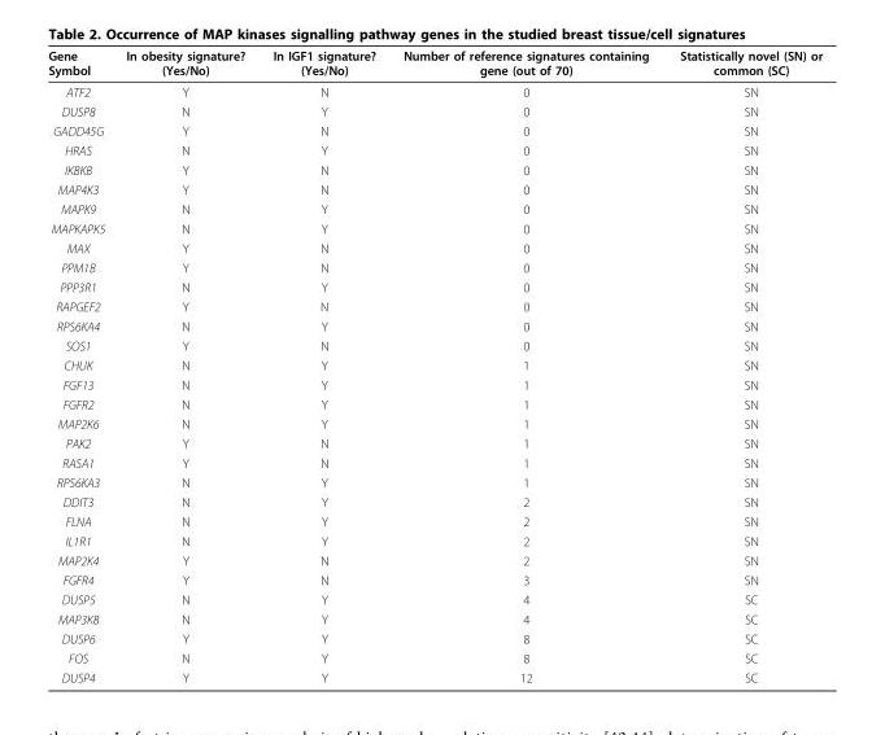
<table><thead><tr><td>Gene Symbol</td><td>In obesity signature? (Yes/No)</td><td>In IGF1 signature? (Yes/No)</td><td>Number of reference signatures containing gene (out of 70)</td><td>Statistically novel (SN) or common (SC)</td></tr></thead><tbody><tr><td>ATF2</td><td>Y</td><td>N</td><td>0</td><td>SN</td></tr><tr><td>DUSP8</td><td>N</td><td>Y</td><td>0</td><td>SN</td></tr><tr><td>GADD45G</td><td>Y</td><td>N</td><td>0</td><td>SN</td></tr><tr><td>HRAS</td><td>N</td><td>Y</td><td>0</td><td>SN</td></tr><tr><td>IKBKB</td><td>Y</td><td>N</td><td>0</td><td>SN</td></tr><tr><td>MAP4K3</td><td>Y</td><td>N</td><td>0</td><td>SN</td></tr><tr><td>MAPK9</td><td>N</td><td>Y</td><td>0</td><td>SN</td></tr><tr><td>MAPKAPK5</td><td>N</td><td>Y</td><td>0</td><td>SN</td></tr><tr><td>MAX</td><td>Y</td><td>N</td><td>0</td><td>SN</td></tr><tr><td>PPM1B</td><td>Y</td><td>N</td><td>0</td><td>SN</td></tr><tr><td>PPP3R1</td><td>N</td><td>Y</td><td>0</td><td>SN</td></tr><tr><td>RAPGEF2</td><td>Y</td><td>N</td><td>0</td><td>SN</td></tr><tr><td>RPS6KA4</td><td>N</td><td>Y</td><td>0</td><td>SN</td></tr><tr><td>SOS1</td><td>Y</td><td>N</td><td>0</td><td>SN</td></tr><tr><td>CHUK</td><td>N</td><td>Y</td><td>1</td><td>SN</td></tr><tr><td>FGF13</td><td>N</td><td>Y</td><td>1</td><td>SN</td></tr><tr><td>FGFR2</td><td>N</td><td>Y</td><td>1</td><td>SN</td></tr><tr><td>MAP2K6</td><td>N</td><td>Y</td><td>1</td><td>SN</td></tr><tr><td>PAK2</td><td>Y</td><td>N</td><td>1</td><td>SN</td></tr><tr><td>RASA1</td><td>Y</td><td>N</td><td>1</td><td>SN</td></tr><tr><td>RPS6KA3</td><td>N</td><td>Y</td><td>1</td><td>SN</td></tr><tr><td>DDIT3</td><td>N</td><td>Y</td><td>2</td><td>SN</td></tr><tr><td>FLNA</td><td>N</td><td>Y</td><td>2</td><td>SN</td></tr><tr><td>IL1R1</td><td>N</td><td>Y</td><td>2</td><td>SN</td></tr><tr><td>MAP2K4</td><td>Y</td><td>N</td><td>2</td><td>SN</td></tr><tr><td>FGFR4</td><td>Y</td><td>N</td><td>3</td><td>SN</td></tr><tr><td>DUSP5</td><td>N</td><td>Y</td><td>4</td><td>SC</td></tr><tr><td>MAP3K8</td><td>N</td><td>Y</td><td>4</td><td>SC</td></tr><tr><td>DUSP6</td><td>Y</td><td>Y</td><td>8</td><td>SC</td></tr><tr><td>FOS</td><td>N</td><td>Y</td><td>8</td><td>SC</td></tr><tr><td>DUSP4</td><td>Y</td><td>Y</td><td>12</td><td>SC</td></tr></tbody></table>